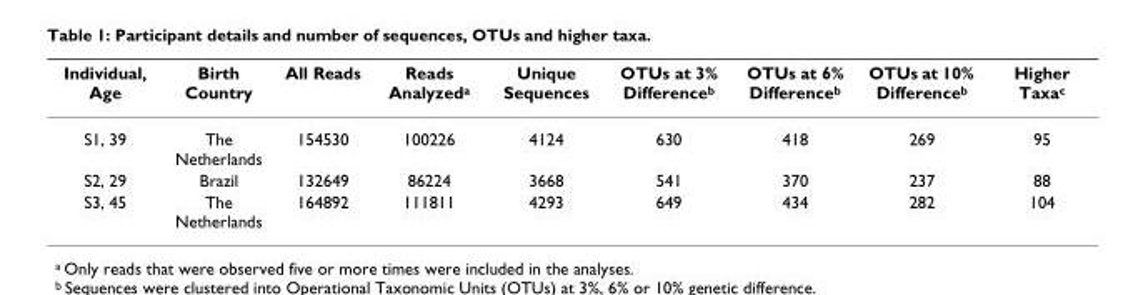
<table><thead><tr><td>Individual, Age</td><td>Birth Country</td><td>All Reads</td><td>Reads Analyzed<sup>a</sup></td><td>Unique Sequences</td><td>OTUs at 3% Difference<sup>b</sup></td><td>OTUs at 6% Difference<sup>b</sup></td><td>OTUs at 10% Difference<sup>b</sup></td><td>Higher Taxa<sup>c</sup></td></tr></thead><tbody><tr><td>S1, 39</td><td>The Netherlands</td><td>154530</td><td>100226</td><td>4124</td><td>630</td><td>418</td><td>269</td><td>95</td></tr><tr><td>S2, 29</td><td>Brazil</td><td>132649</td><td>86224</td><td>3668</td><td>541</td><td>370</td><td>237</td><td>88</td></tr><tr><td>S3, 45</td><td>The Netherlands</td><td>164892</td><td>111811</td><td>4293</td><td>649</td><td>434</td><td>282</td><td>104</td></tr></tbody></table>